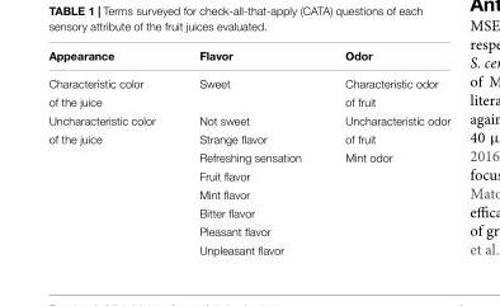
<table><thead><tr><td>Appearance</td><td>Flavor</td><td>Odor</td></tr></thead><tbody><tr><td>Characteristic color</td><td>Sweet</td><td>Characteristic odor</td></tr><tr><td>of the juice</td><td></td><td>of fruit</td></tr><tr><td>Uncharacteristic color</td><td>Not sweet</td><td>Uncharacteristic odor</td></tr><tr><td rowspan="7">of the juice</td><td>Strange flavor</td><td>of fruit</td></tr><tr><td>Refreshing sensation</td><td>Mint odor</td></tr><tr><td>Fruit flavor</td><td></td></tr><tr><td>Mint flavor</td><td></td></tr><tr><td>Bitter flavor</td><td></td></tr><tr><td>Pleasant flavor</td><td></td></tr><tr><td>Unpleasant flavor</td><td></td></tr></tbody></table>